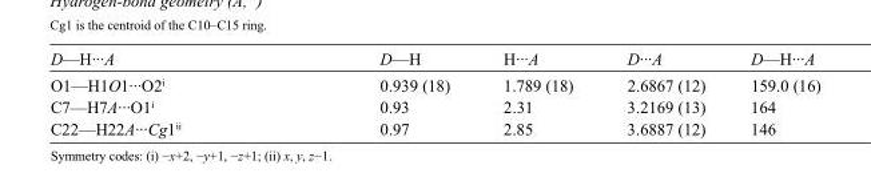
<table><tbody><tr><td>D—H···A</td><td>D—H</td><td>H···A</td><td>D···A</td><td>D—H···A</td></tr><tr><td>O1—H1O1···O2<sup>i</sup></td><td>0.939 (18)</td><td>1.789 (18)</td><td>2.6867 (12)</td><td>159.0 (16)</td></tr><tr><td>C7—H7A···O1<sup>i</sup></td><td>0.93</td><td>2.31</td><td>3.2169 (13)</td><td>164</td></tr><tr><td>C22—H22A···Cg1<sup>ii</sup></td><td>0.97</td><td>2.85</td><td>3.6887 (12)</td><td>146</td></tr></tbody></table>